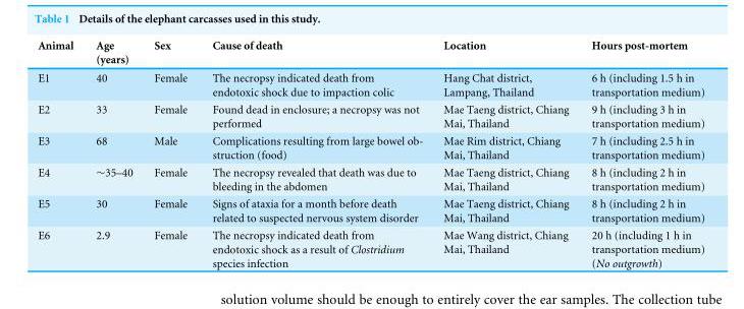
<table><thead><tr><td>Animal</td><td>Age (years)</td><td>Sex</td><td>Cause of death</td><td>Location</td><td>Hours post-mortem</td></tr></thead><tbody><tr><td>E1</td><td>40</td><td>Female</td><td>The necropsy indicated death from endotoxic shock due to impaction colic</td><td>Hang Chat district, Lampang, Thailand</td><td>6 h (including 1.5 h in transportation medium)</td></tr><tr><td>E2</td><td>33</td><td>Female</td><td>Found dead in enclosure; a necropsy was not performed</td><td>Mae Taeng district, Chiang Mai, Thailand</td><td>9 h (including 3 h in transportation medium)</td></tr><tr><td>E3</td><td>68</td><td>Male</td><td>Complications resulting from large bowel ob- struction (food)</td><td>Mae Rim district, Chiang Mai, Thailand</td><td>7 h (including 2.5 h in transportation medium)</td></tr><tr><td>E4</td><td>∼35–40</td><td>Female</td><td>The necropsy revealed that death was due to bleeding in the abdomen</td><td>Mae Taeng district, Chiang Mai, Thailand</td><td>8 h (including 2 h in transportation medium)</td></tr><tr><td>E5</td><td>30</td><td>Female</td><td>Signs of ataxia for a month before death related to suspected nervous system disorder</td><td>Mae Taeng district, Chiang Mai, Thailand</td><td>8 h (including 2 h in transportation medium)</td></tr><tr><td>E6</td><td>2.9</td><td>Female</td><td>The necropsy indicated death from endotoxic shock as a result of Clostridium species infection</td><td>Mae Wang district, Chiang Mai, Thailand</td><td>20 h (including 1 h in transportation medium) (No outgrowth)</td></tr></tbody></table>